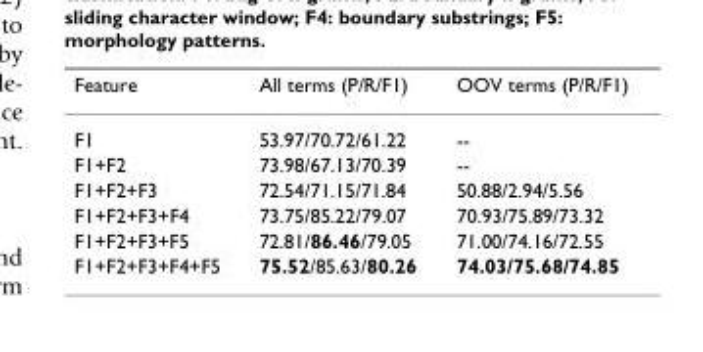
<table><thead><tr><td>Feature</td><td>All terms (P/R/F1)</td><td>OOV terms (P/R/F1)</td></tr></thead><tbody><tr><td>F1</td><td>53.97/70.72/61.22</td><td>--</td></tr><tr><td>F1+F2</td><td>73.98/67.13/70.39</td><td>--</td></tr><tr><td>F1+F2+F3</td><td>72.54/71.15/71.84</td><td>50.88/2.94/5.56</td></tr><tr><td>F1+F2+F3+F4</td><td>73.75/85.22/79.07</td><td>70.93/75.89/73.32</td></tr><tr><td>F1+F2+F3+F5</td><td>72.81/86.46/79.05</td><td>71.00/74.16/72.55</td></tr><tr><td>F1+F2+F3+F4+F5</td><td>75.52/85.63/80.26</td><td>74.03/75.68/74.85</td></tr></tbody></table>